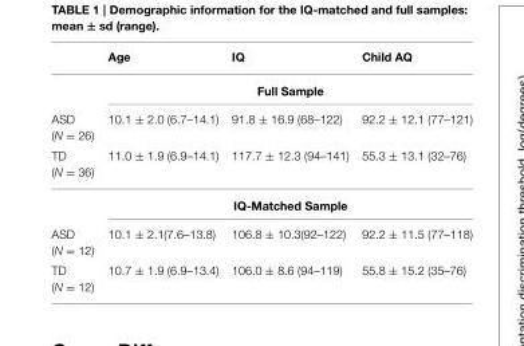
<table><thead><tr><td></td><td>Age</td><td>IQ</td><td>Child AQ</td></tr></thead><tbody><tr><td></td><td colspan="3">Full Sample</td></tr><tr><td>ASD (N = 26)</td><td>10.1 ± 2.0 (6.7–14.1)</td><td>91.8 ± 16.9 (68–122)</td><td>92.2 ± 12.1 (77–121)</td></tr><tr><td rowspan="2">TD (N = 36)</td><td>11.0 ± 1.9 (6.9–14.1)</td><td>117.7 ± 12.3 (94–141)</td><td>55.3 ± 13.1 (32–76)</td></tr><tr><td colspan="3">IQ-Matched Sample</td></tr><tr><td>ASD (N = 12)</td><td>10.1 ± 2.1(7.6–13.8)</td><td>106.8 ± 10.3(92–122)</td><td>92.2 ± 11.5 (77–118)</td></tr><tr><td>TD (N = 12)</td><td>10.7 ± 1.9 (6.9–13.4)</td><td>106.0 ± 8.6 (94–119)</td><td>55.8 ± 15.2 (35–76)</td></tr></tbody></table>